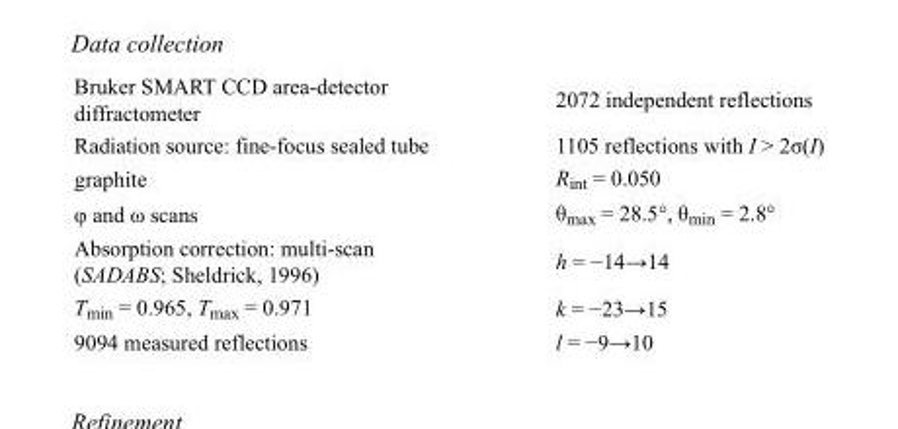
<table><tbody><tr><td>Bruker SMART CCD area-detector diffractometer</td><td>2072 independent reflections</td></tr><tr><td>Radiation source: fine-focus sealed tube</td><td>1105 reflections with I &gt; 2σ(I)</td></tr><tr><td>graphite</td><td>R<sub>int</sub> = 0.050</td></tr><tr><td>φ and ω scans</td><td>θ<sub>max</sub> = 28.5°, θ<sub>min</sub> = 2.8°</td></tr><tr><td>Absorption correction: multi-scan (SADABS; Sheldrick, 1996)</td><td>h = −14→14</td></tr><tr><td>T<sub>min</sub> = 0.965, T<sub>max</sub> = 0.971</td><td>k = −23→15</td></tr><tr><td>9094 measured reflections</td><td>l = −9→10</td></tr></tbody></table>